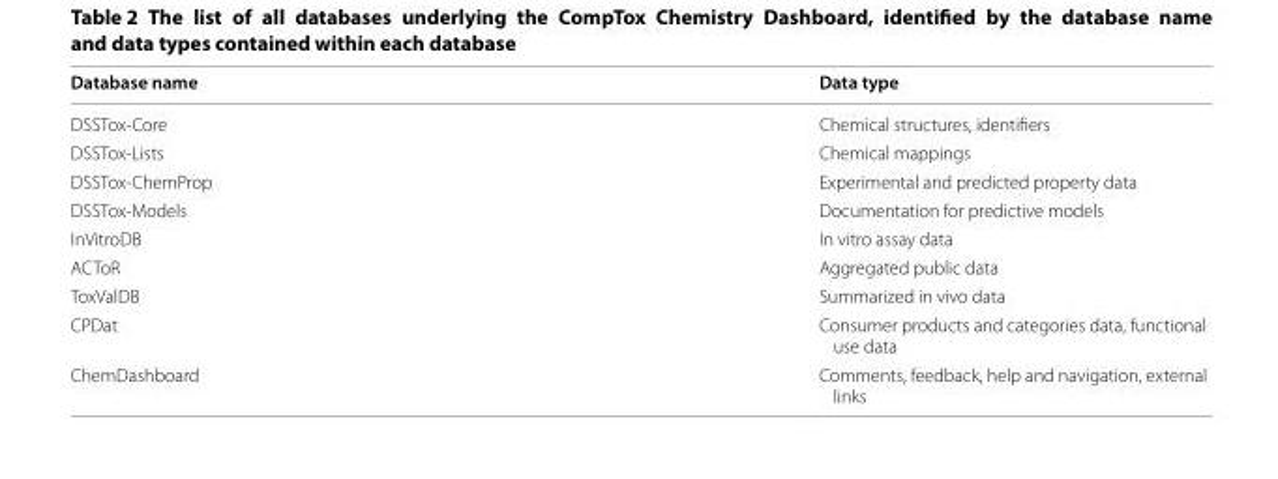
<table><thead><tr><td>Database name</td><td>Data type</td></tr></thead><tbody><tr><td>DSSTox-Core</td><td>Chemical structures, identifiers</td></tr><tr><td>DSSTox-Lists</td><td>Chemical mappings</td></tr><tr><td>DSSTox-ChemProp</td><td>Experimental and predicted property data</td></tr><tr><td>DSSTox-Models</td><td>Documentation for predictive models</td></tr><tr><td>InVitroDB</td><td>In vitro assay data</td></tr><tr><td>ACToR</td><td>Aggregated public data</td></tr><tr><td>ToxValDB</td><td>Summarized in vivo data</td></tr><tr><td>CPDat</td><td>Consumer products and categories data, functional use data</td></tr><tr><td>ChemDashboard</td><td>Comments, feedback, help and navigation, external links</td></tr></tbody></table>